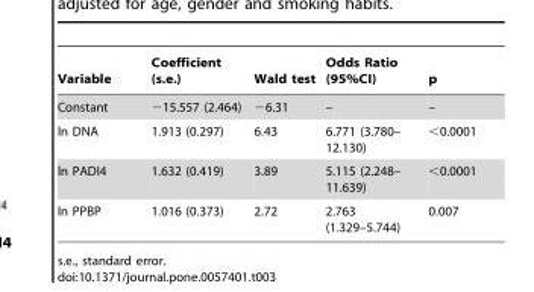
<table><thead><tr><td>Variable</td><td>Coefficient (s.e.)</td><td>Wald test</td><td>Odds Ratio (95%CI)</td><td>p</td></tr></thead><tbody><tr><td>Constant</td><td>−15.557 (2.464)</td><td>−6.31</td><td>–</td><td>–</td></tr><tr><td>ln DNA</td><td>1.913 (0.297)</td><td>6.43</td><td>6.771 (3.780– 12.130)</td><td>&lt;0.0001</td></tr><tr><td>ln PADI4</td><td>1.632 (0.419)</td><td>3.89</td><td>5.115 (2.248– 11.639)</td><td>&lt;0.0001</td></tr><tr><td>ln PPBP</td><td>1.016 (0.373)</td><td>2.72</td><td>2.763 (1.329–5.744)</td><td>0.007</td></tr></tbody></table>